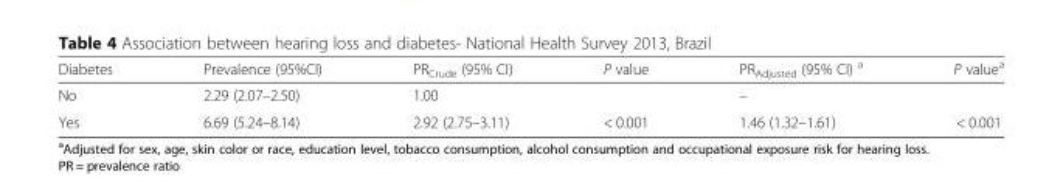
<table><thead><tr><td>Diabetes</td><td>Prevalence (95%CI)</td><td>PR<sub>Crude</sub> (95% CI)</td><td>P value</td><td>PR<sub>Adjusted</sub> (95% CI) <sup>a</sup></td><td>P value<sup>a</sup></td></tr></thead><tbody><tr><td>No</td><td>2.29 (2.07–2.50)</td><td>1.00</td><td></td><td>–</td><td></td></tr><tr><td>Yes</td><td>6.69 (5.24–8.14)</td><td>2.92 (2.75–3.11)</td><td>&lt; 0.001</td><td>1.46 (1.32–1.61)</td><td>&lt; 0.001</td></tr></tbody></table>